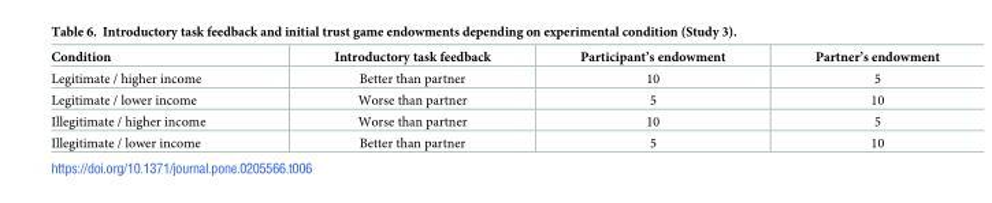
<table><thead><tr><td>Condition</td><td>Introductory task feedback</td><td>Participant’s endowment</td><td>Partner’s endowment</td></tr></thead><tbody><tr><td>Legitimate / higher income</td><td>Better than partner</td><td>10</td><td>5</td></tr><tr><td>Legitimate / lower income</td><td>Worse than partner</td><td>5</td><td>10</td></tr><tr><td>Illegitimate / higher income</td><td>Worse than partner</td><td>10</td><td>5</td></tr><tr><td>Illegitimate / lower income</td><td>Better than partner</td><td>5</td><td>10</td></tr></tbody></table>